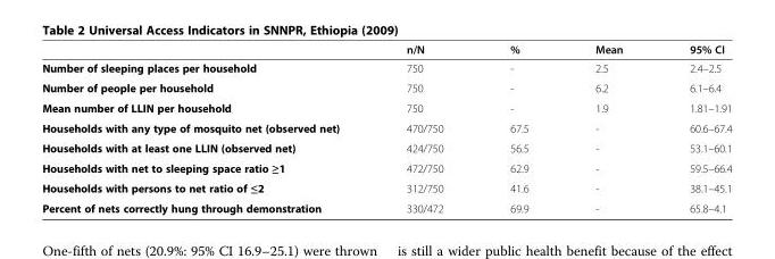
<table><thead><tr><td></td><td>n/N</td><td>%</td><td>Mean</td><td>95% CI</td></tr></thead><tbody><tr><td>Number of sleeping places per household</td><td>750</td><td>-</td><td>2.5</td><td>2.4–2.5</td></tr><tr><td>Number of people per household</td><td>750</td><td>-</td><td>6.2</td><td>6.1–6.4</td></tr><tr><td>Mean number of LLIN per household</td><td>750</td><td>-</td><td>1.9</td><td>1.81–1.91</td></tr><tr><td>Households with any type of mosquito net (observed net)</td><td>470/750</td><td>67.5</td><td>-</td><td>60.6–67.4</td></tr><tr><td>Households with at least one LLIN (observed net)</td><td>424/750</td><td>56.5</td><td>-</td><td>53.1–60.1</td></tr><tr><td>Households with net to sleeping space ratio ≥1</td><td>472/750</td><td>62.9</td><td>-</td><td>59.5–66.4</td></tr><tr><td>Households with persons to net ratio of ≤2</td><td>312/750</td><td>41.6</td><td>-</td><td>38.1–45.1</td></tr><tr><td>Percent of nets correctly hung through demonstration</td><td>330/472</td><td>69.9</td><td>-</td><td>65.8–4.1</td></tr></tbody></table>